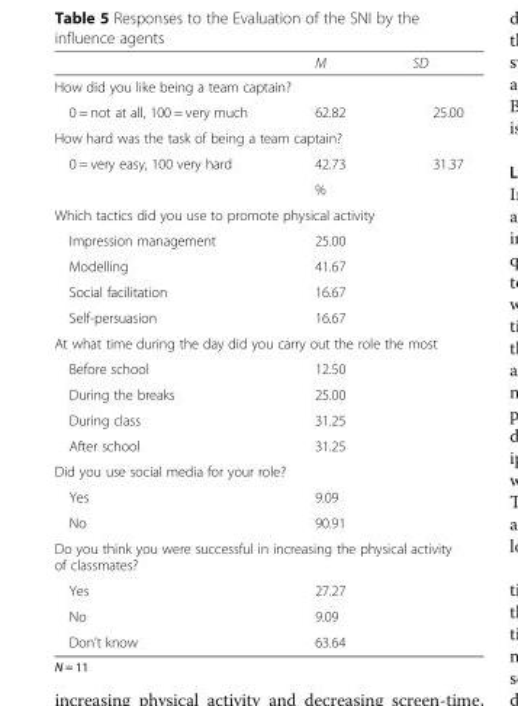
<table><thead><tr><td></td><td>M</td><td>SD</td></tr></thead><tbody><tr><td colspan="3">How did you like being a team captain?</td></tr><tr><td>0 = not at all, 100 = very much</td><td>62.82</td><td>25.00</td></tr><tr><td colspan="3">How hard was the task of being a team captain?</td></tr><tr><td rowspan="2">0 = very easy, 100 very hard</td><td>42.73</td><td>31.37</td></tr><tr><td colspan="2">%</td></tr><tr><td colspan="3">Which tactics did you use to promote physical activity</td></tr><tr><td>Impression management</td><td>25.00</td><td></td></tr><tr><td>Modelling</td><td>41.67</td><td></td></tr><tr><td>Social facilitation</td><td>16.67</td><td></td></tr><tr><td>Self-persuasion</td><td>16.67</td><td></td></tr><tr><td colspan="3">At what time during the day did you carry out the role the most</td></tr><tr><td>Before school</td><td>12.50</td><td></td></tr><tr><td>During the breaks</td><td>25.00</td><td></td></tr><tr><td>During class</td><td>31.25</td><td></td></tr><tr><td>After school</td><td>31.25</td><td></td></tr><tr><td colspan="3">Did you use social media for your role?</td></tr><tr><td>Yes</td><td>9.09</td><td></td></tr><tr><td>No</td><td>90.91</td><td></td></tr><tr><td colspan="3">Do you think you were successful in increasing the physical activity of classmates?</td></tr><tr><td>Yes</td><td>27.27</td><td></td></tr><tr><td>No</td><td>9.09</td><td></td></tr><tr><td>Don’t know</td><td>63.64</td><td></td></tr></tbody></table>